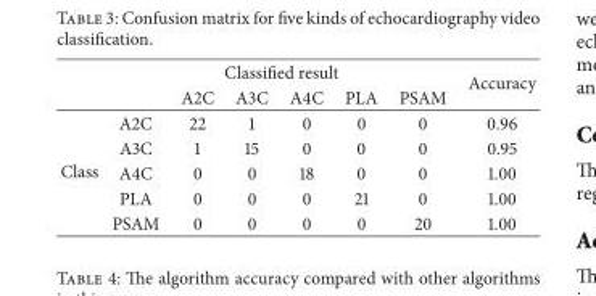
<table><thead><tr><td rowspan="2"></td><td colspan="6">Classified result</td><td rowspan="2">Accuracy</td></tr><tr><td></td><td>A2C</td><td>A3C</td><td>A4C</td><td>PLA</td><td>PSAM</td></tr></thead><tbody><tr><td rowspan="5">Class</td><td>A2C</td><td>22</td><td>1</td><td>0</td><td>0</td><td>0</td><td>0.96</td></tr><tr><td>A3C</td><td>1</td><td>15</td><td>0</td><td>0</td><td>0</td><td>0.95</td></tr><tr><td>A4C</td><td>0</td><td>0</td><td>18</td><td>0</td><td>0</td><td>1.00</td></tr><tr><td>PLA</td><td>0</td><td>0</td><td>0</td><td>21</td><td>0</td><td>1.00</td></tr><tr><td>PSAM</td><td>0</td><td>0</td><td>0</td><td>0</td><td>20</td><td>1.00</td></tr></tbody></table>